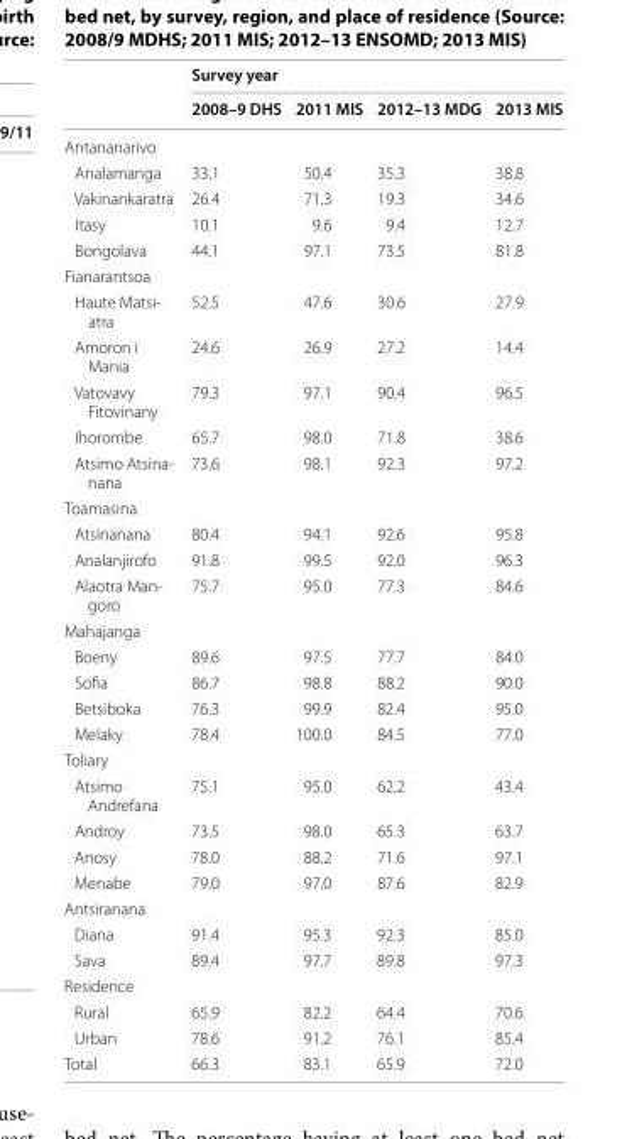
<table><thead><tr><td rowspan="2"></td><td colspan="4">Survey year</td></tr><tr><td>2008–9 DHS</td><td>2011 MIS</td><td>2012–13 MDG</td><td>2013 MIS</td></tr></thead><tbody><tr><td colspan="5">Antananarivo</td></tr><tr><td>Analamanga</td><td>33.1</td><td>50.4</td><td>35.3</td><td>38.8</td></tr><tr><td>Vakinankaratra</td><td>26.4</td><td>71.3</td><td>19.3</td><td>34.6</td></tr><tr><td>Itasy</td><td>10.1</td><td>9.6</td><td>9.4</td><td>12.7</td></tr><tr><td>Bongolava</td><td>44.1</td><td>97.1</td><td>73.5</td><td>81.8</td></tr><tr><td colspan="5">Fianarantsoa</td></tr><tr><td>Haute Matsi- atra</td><td>52.5</td><td>47.6</td><td>30.6</td><td>27.9</td></tr><tr><td>Amoron i Mania</td><td>24.6</td><td>26.9</td><td>27.2</td><td>14.4</td></tr><tr><td>Vatovavy Fitovinany</td><td>79.3</td><td>97.1</td><td>90.4</td><td>96.5</td></tr><tr><td>Ihorombe</td><td>65.7</td><td>98.0</td><td>71.8</td><td>38.6</td></tr><tr><td>Atsimo Atsina- nana</td><td>73.6</td><td>98.1</td><td>92.3</td><td>97.2</td></tr><tr><td colspan="5">Toamasina</td></tr><tr><td>Atsinanana</td><td>80.4</td><td>94.1</td><td>92.6</td><td>95.8</td></tr><tr><td>Analanjirofo</td><td>91.8</td><td>99.5</td><td>92.0</td><td>96.3</td></tr><tr><td>Alaotra Man- goro</td><td>75.7</td><td>95.0</td><td>77.3</td><td>84.6</td></tr><tr><td colspan="5">Mahajanga</td></tr><tr><td>Boeny</td><td>89.6</td><td>97.5</td><td>77.7</td><td>84.0</td></tr><tr><td>Sofia</td><td>86.7</td><td>98.8</td><td>88.2</td><td>90.0</td></tr><tr><td>Betsiboka</td><td>76.3</td><td>99.9</td><td>82.4</td><td>95.0</td></tr><tr><td>Melaky</td><td>78.4</td><td>100.0</td><td>84.5</td><td>77.0</td></tr><tr><td colspan="5">Toliary</td></tr><tr><td>Atsimo Andrefana</td><td>75.1</td><td>95.0</td><td>62.2</td><td>43.4</td></tr><tr><td>Androy</td><td>73.5</td><td>98.0</td><td>65.3</td><td>63.7</td></tr><tr><td>Anosy</td><td>78.0</td><td>88.2</td><td>71.6</td><td>97.1</td></tr><tr><td>Menabe</td><td>79.0</td><td>97.0</td><td>87.6</td><td>82.9</td></tr><tr><td colspan="5">Antsiranana</td></tr><tr><td>Diana</td><td>91.4</td><td>95.3</td><td>92.3</td><td>85.0</td></tr><tr><td>Sava</td><td>89.4</td><td>97.7</td><td>89.8</td><td>97.3</td></tr><tr><td colspan="5">Residence</td></tr><tr><td>Rural</td><td>65.9</td><td>82.2</td><td>64.4</td><td>70.6</td></tr><tr><td>Urban</td><td>78.6</td><td>91.2</td><td>76.1</td><td>85.4</td></tr><tr><td>Total</td><td>66.3</td><td>83.1</td><td>65.9</td><td>72.0</td></tr></tbody></table>